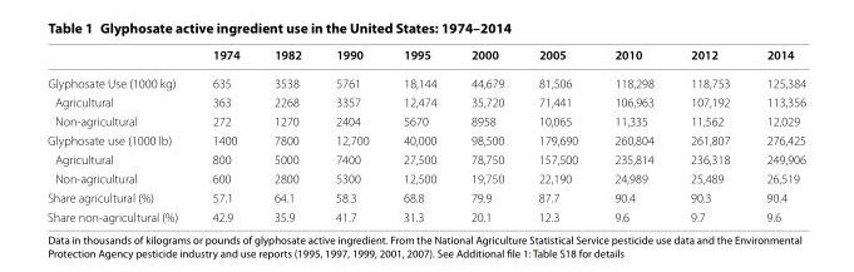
<table><thead><tr><td></td><td>1974</td><td>1982</td><td>1990</td><td>1995</td><td>2000</td><td>2005</td><td>2010</td><td>2012</td><td>2014</td></tr></thead><tbody><tr><td>Glyphosate Use (1000 kg)</td><td>635</td><td>3538</td><td>5761</td><td>18,144</td><td>44,679</td><td>81,506</td><td>118,298</td><td>118,753</td><td>125,384</td></tr><tr><td>Agricultural</td><td>363</td><td>2268</td><td>3357</td><td>12,474</td><td>35,720</td><td>71,441</td><td>106,963</td><td>107,192</td><td>113,356</td></tr><tr><td>Non-agricultural</td><td>272</td><td>1270</td><td>2404</td><td>5670</td><td>8958</td><td>10,065</td><td>11,335</td><td>11,562</td><td>12,029</td></tr><tr><td>Glyphosate use (1000 lb)</td><td>1400</td><td>7800</td><td>12,700</td><td>40,000</td><td>98,500</td><td>179,690</td><td>260,804</td><td>261,807</td><td>276,425</td></tr><tr><td>Agricultural</td><td>800</td><td>5000</td><td>7400</td><td>27,500</td><td>78,750</td><td>157,500</td><td>235,814</td><td>236,318</td><td>249,906</td></tr><tr><td>Non-agricultural</td><td>600</td><td>2800</td><td>5300</td><td>12,500</td><td>19,750</td><td>22,190</td><td>24,989</td><td>25,489</td><td>26,519</td></tr><tr><td>Share agricultural (%)</td><td>57.1</td><td>64.1</td><td>58.3</td><td>68.8</td><td>79.9</td><td>87.7</td><td>90.4</td><td>90.3</td><td>90.4</td></tr><tr><td>Share non-agricultural (%)</td><td>42.9</td><td>35.9</td><td>41.7</td><td>31.3</td><td>20.1</td><td>12.3</td><td>9.6</td><td>9.7</td><td>9.6</td></tr></tbody></table>